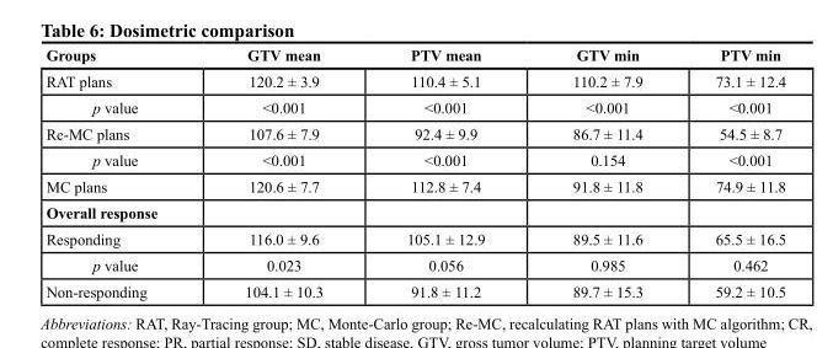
<table><thead><tr><td>Groups</td><td>GTV mean</td><td>PTV mean</td><td>GTV min</td><td>PTV min</td></tr></thead><tbody><tr><td>RAT plans</td><td>120.2 ± 3.9</td><td>110.4 ± 5.1</td><td>110.2 ± 7.9</td><td>73.1 ± 12.4</td></tr><tr><td>p value</td><td>&lt;0.001</td><td>&lt;0.001</td><td>&lt;0.001</td><td>&lt;0.001</td></tr><tr><td>Re-MC plans</td><td>107.6 ± 7.9</td><td>92.4 ± 9.9</td><td>86.7 ± 11.4</td><td>54.5 ± 8.7</td></tr><tr><td>p value</td><td>&lt;0.001</td><td>&lt;0.001</td><td>0.154</td><td>&lt;0.001</td></tr><tr><td>MC plans</td><td>120.6 ± 7.7</td><td>112.8 ± 7.4</td><td>91.8 ± 11.8</td><td>74.9 ± 11.8</td></tr><tr><td colspan="5">Overall response</td></tr><tr><td>Responding</td><td>116.0 ± 9.6</td><td>105.1 ± 12.9</td><td>89.5 ± 11.6</td><td>65.5 ± 16.5</td></tr><tr><td>p value</td><td>0.023</td><td>0.056</td><td>0.985</td><td>0.462</td></tr><tr><td>Non-responding</td><td>104.1 ± 10.3</td><td>91.8 ± 11.2</td><td>89.7 ± 15.3</td><td>59.2 ± 10.5</td></tr></tbody></table>